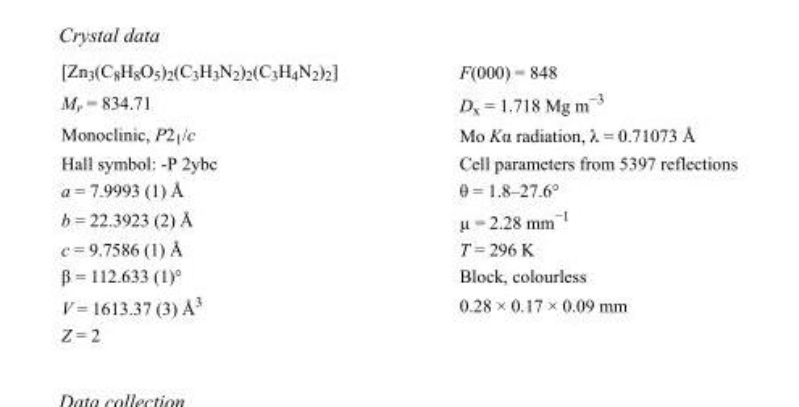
<table><tbody><tr><td>[Zn<sub>3</sub>(C<sub>8</sub>H<sub>8</sub>O<sub>5</sub>)<sub>2</sub>(C<sub>3</sub>H<sub>3</sub>N<sub>2</sub>)<sub>2</sub>(C<sub>3</sub>H<sub>4</sub>N<sub>2</sub>)<sub>2</sub>]</td><td>F(000) = 848</td></tr><tr><td>M<sub>r</sub> = 834.71</td><td>D<sub>x</sub> = 1.718 Mg m<sup>−3</sup></td></tr><tr><td>Monoclinic, P2<sub>1</sub>/c</td><td>Mo Kα radiation, λ = 0.71073 Å</td></tr><tr><td>Hall symbol: -P 2ybc</td><td>Cell parameters from 5397 reflections</td></tr><tr><td>a = 7.9993 (1) Å</td><td>θ = 1.8–27.6°</td></tr><tr><td>b = 22.3923 (2) Å</td><td>µ = 2.28 mm<sup>−1</sup></td></tr><tr><td>c = 9.7586 (1) Å</td><td>T = 296 K</td></tr><tr><td>β = 112.633 (1)°</td><td>Block, colourless</td></tr><tr><td>V = 1613.37 (3) Å<sup>3</sup></td><td>0.28 × 0.17 × 0.09 mm</td></tr><tr><td>Z = 2</td><td></td></tr></tbody></table>